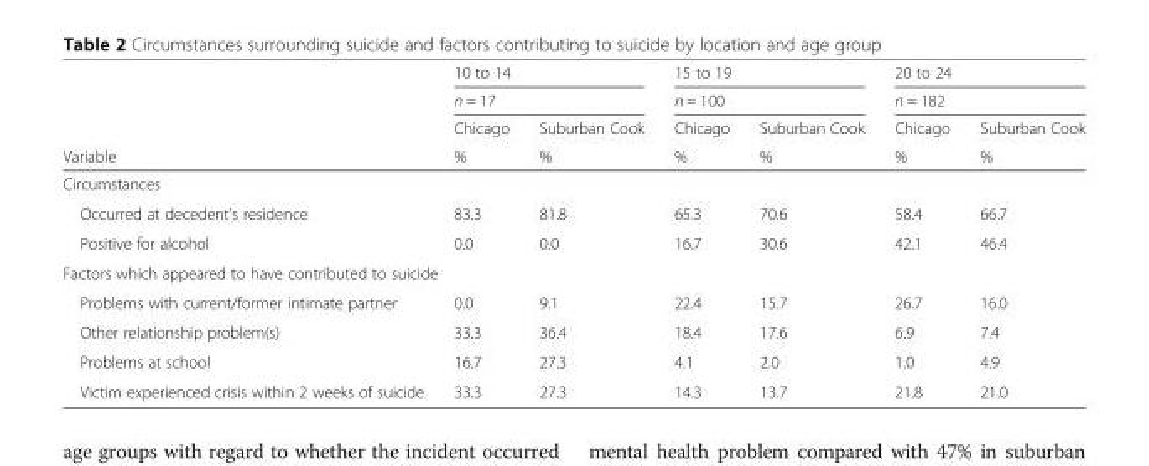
<table><thead><tr><td rowspan="4">Variable</td><td rowspan="2" colspan="2">10 to 14 n = 17</td><td rowspan="2" colspan="2">15 to 19 n = 100</td><td rowspan="2" colspan="2">20 to 24 n = 182</td></tr><tr></tr><tr><td rowspan="2">Chicago %</td><td rowspan="2">Suburban Cook %</td><td rowspan="2">Chicago %</td><td rowspan="2">Suburban Cook %</td><td rowspan="2">Chicago %</td><td rowspan="2">Suburban Cook %</td></tr><tr></tr></thead><tbody><tr><td colspan="7">Circumstances</td></tr><tr><td>Occurred at decedent’s residence</td><td>83.3</td><td>81.8</td><td>65.3</td><td>70.6</td><td>58.4</td><td>66.7</td></tr><tr><td>Positive for alcohol</td><td>0.0</td><td>0.0</td><td>16.7</td><td>30.6</td><td>42.1</td><td>46.4</td></tr><tr><td colspan="7">Factors which appeared to have contributed to suicide</td></tr><tr><td>Problems with current/former intimate partner</td><td>0.0</td><td>9.1</td><td>22.4</td><td>15.7</td><td>26.7</td><td>16.0</td></tr><tr><td>Other relationship problem(s)</td><td>33.3</td><td>36.4</td><td>18.4</td><td>17.6</td><td>6.9</td><td>7.4</td></tr><tr><td>Problems at school</td><td>16.7</td><td>27.3</td><td>4.1</td><td>2.0</td><td>1.0</td><td>4.9</td></tr><tr><td>Victim experienced crisis within 2 weeks of suicide</td><td>33.3</td><td>27.3</td><td>14.3</td><td>13.7</td><td>21.8</td><td>21.0</td></tr></tbody></table>